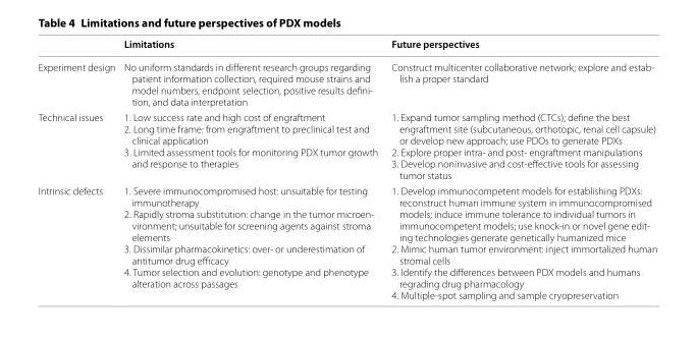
<table><thead><tr><td></td><td>Limitations</td><td>Future perspectives</td></tr></thead><tbody><tr><td>Experiment design</td><td>No uniform standards in different research groups regarding patient information collection, required mouse strains and model numbers, endpoint selection, positive results defini- tion, and data interpretation</td><td>Construct multicenter collaborative network; explore and estab- lish a proper standard</td></tr><tr><td>Technical issues</td><td>1. Low success rate and high cost of engraftment 2. Long time frame: from engraftment to preclinical test and clinical application 3. Limited assessment tools for monitoring PDX tumor growth and response to therapies</td><td>1. Expand tumor sampling method (CTCs); define the best engraftment site (subcutaneous, orthotopic, renal cell capsule) or develop new approach; use PDOs to generate PDXs 2. Explore proper intra- and post- engraftment manipulations 3. Develop noninvasive and cost-effective tools for assessing tumor status</td></tr><tr><td>Intrinsic defects</td><td>1. Severe immunocompromised host: unsuitable for testing immunotherapy 2. Rapidly stroma substitution: change in the tumor microen- vironment; unsuitable for screening agents against stroma elements 3. Dissimilar pharmacokinetics: over- or underestimation of antitumor drug efficacy 4. Tumor selection and evolution: genotype and phenotype alteration across passages</td><td>1. Develop immunocompetent models for establishing PDXs: reconstruct human immune system in immunocompromised models; induce immune tolerance to individual tumors in immunocompetent models; use knock-in or novel gene edit- ing technologies generate genetically humanized mice 2. Mimic human tumor environment: inject immortalized human stromal cells 3. Identify the differences between PDX models and humans regrading drug pharmacology 4. Multiple-spot sampling and sample cryopreservation</td></tr></tbody></table>